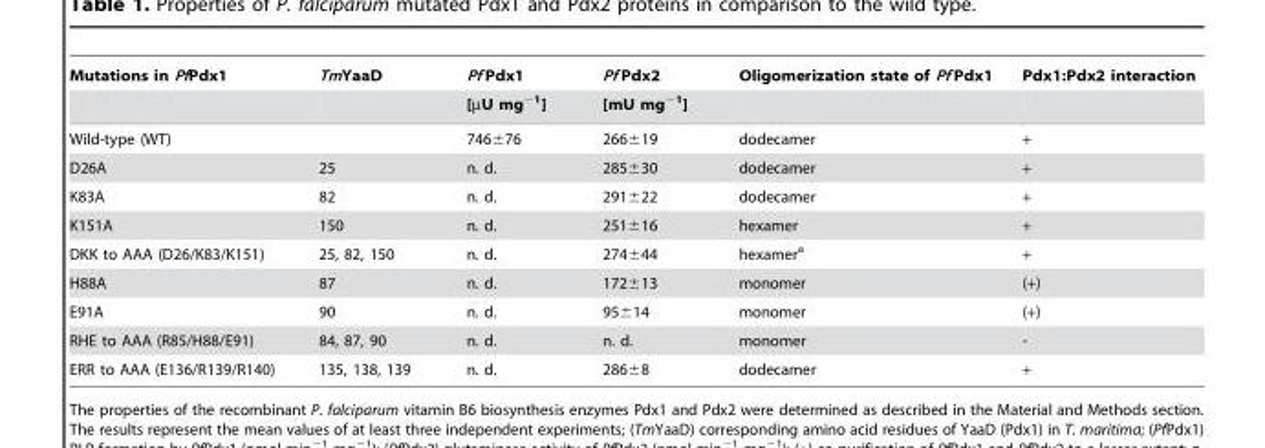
<table><thead><tr><td rowspan="2">Mutations in PfPdx1</td><td rowspan="2">TmYaaD</td><td rowspan="2">Pf Pdx1 [µU mg<sup>−1</sup>]</td><td rowspan="2">Pf Pdx2 [mU mg<sup>−1</sup>]</td><td rowspan="2">Oligomerization state of Pf Pdx1</td><td rowspan="2">Pdx1:Pdx2 interaction</td></tr><tr></tr></thead><tbody><tr><td>Wild-type (WT)</td><td></td><td>746±76</td><td>266±19</td><td>dodecamer</td><td>+</td></tr><tr><td>D26A</td><td>25</td><td>n. d.</td><td>285±30</td><td>dodecamer</td><td>+</td></tr><tr><td>K83A</td><td>82</td><td>n. d.</td><td>291±22</td><td>dodecamer</td><td>+</td></tr><tr><td>K151A</td><td>150</td><td>n. d.</td><td>251±16</td><td>hexamer</td><td>+</td></tr><tr><td>DKK to AAA (D26/K83/K151)</td><td>25, 82, 150</td><td>n. d.</td><td>274±44</td><td>hexamer<sup>a</sup></td><td>+</td></tr><tr><td>H88A</td><td>87</td><td>n. d.</td><td>172±13</td><td>monomer</td><td>(+)</td></tr><tr><td>E91A</td><td>90</td><td>n. d.</td><td>95±14</td><td>monomer</td><td>(+)</td></tr><tr><td>RHE to AAA (R85/H88/E91)</td><td>84, 87, 90</td><td>n. d.</td><td>n. d.</td><td>monomer</td><td>-</td></tr><tr><td>ERR to AAA (E136/R139/R140)</td><td>135, 138, 139</td><td>n. d.</td><td>286±8</td><td>dodecamer</td><td>+</td></tr></tbody></table>